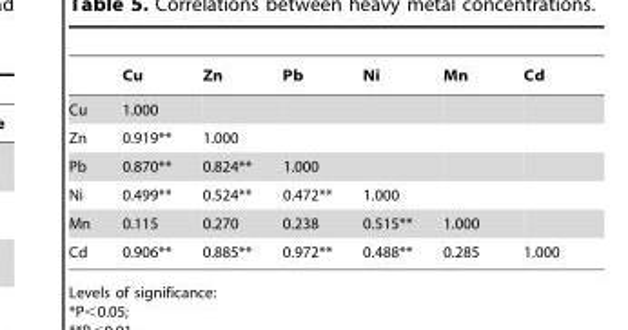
<table><thead><tr><td></td><td>Cu</td><td>Zn</td><td>Pb</td><td>Ni</td><td>Mn</td><td>Cd</td></tr></thead><tbody><tr><td>Cu</td><td>1.000</td><td></td><td></td><td></td><td></td><td></td></tr><tr><td>Zn</td><td>0.919**</td><td>1.000</td><td></td><td></td><td></td><td></td></tr><tr><td>Pb</td><td>0.870**</td><td>0.824**</td><td>1.000</td><td></td><td></td><td></td></tr><tr><td>Ni</td><td>0.499**</td><td>0.524**</td><td>0.472**</td><td>1.000</td><td></td><td></td></tr><tr><td>Mn</td><td>0.115</td><td>0.270</td><td>0.238</td><td>0.515**</td><td>1.000</td><td></td></tr><tr><td>Cd</td><td>0.906**</td><td>0.885**</td><td>0.972**</td><td>0.488**</td><td>0.285</td><td>1.000</td></tr></tbody></table>